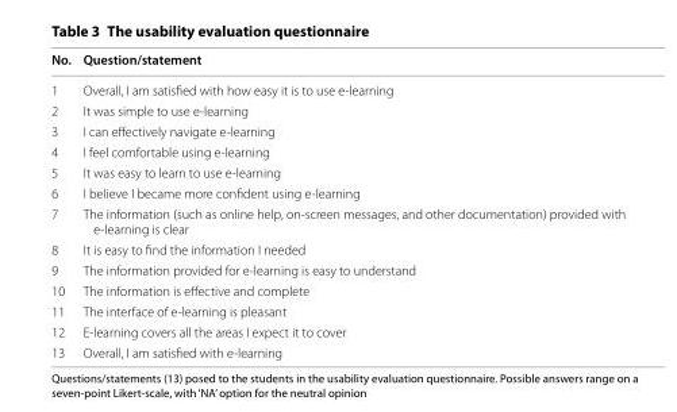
<table><thead><tr><td>No.</td><td>Question/statement</td></tr></thead><tbody><tr><td>1</td><td>Overall, I am satisfied with how easy it is to use e‑learning</td></tr><tr><td>2</td><td>It was simple to use e‑learning</td></tr><tr><td>3</td><td>I can effectively navigate e‑learning</td></tr><tr><td>4</td><td>I feel comfortable using e‑learning</td></tr><tr><td>5</td><td>It was easy to learn to use e‑learning</td></tr><tr><td>6</td><td>I believe I became more confident using e‑learning</td></tr><tr><td>7</td><td>The information (such as online help, on‑screen messages, and other documentation) provided with e‑learning is clear</td></tr><tr><td>8</td><td>It is easy to find the information I needed</td></tr><tr><td>9</td><td>The information provided for e‑learning is easy to understand</td></tr><tr><td>10</td><td>The information is effective and complete</td></tr><tr><td>11</td><td>The interface of e‑learning is pleasant</td></tr><tr><td>12</td><td>E‑learning covers all the areas I expect it to cover</td></tr><tr><td>13</td><td>Overall, I am satisfied with e‑learning</td></tr></tbody></table>